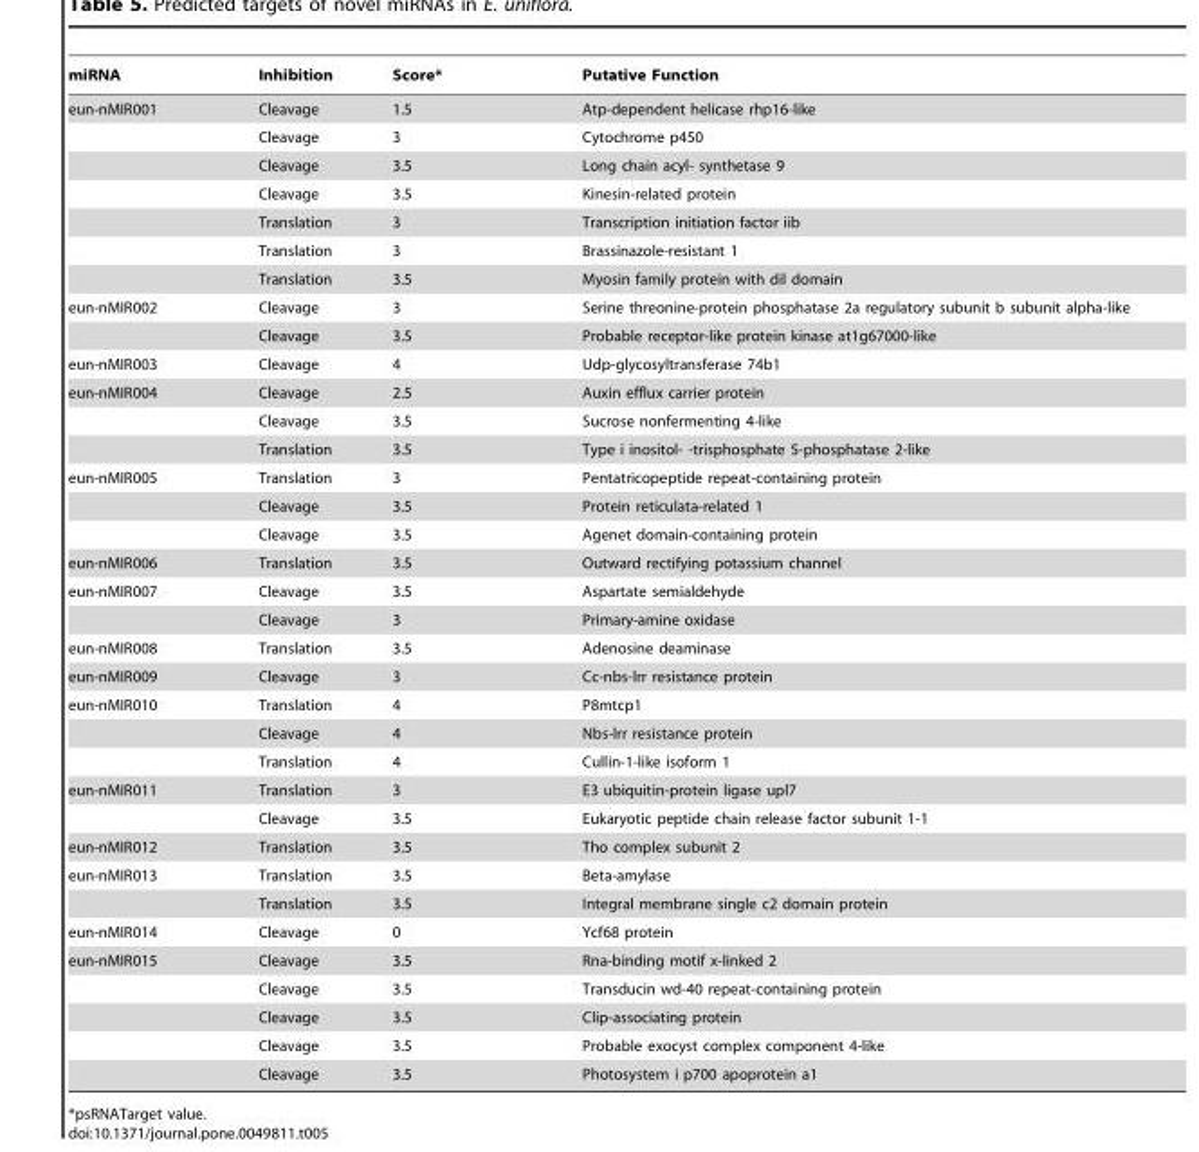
<table><thead><tr><td>miRNA</td><td>Inhibition</td><td>Score*</td><td>Putative Function</td></tr></thead><tbody><tr><td rowspan="7">eun-nMIR001</td><td>Cleavage</td><td>1.5</td><td>Atp-dependent helicase rhp16-like</td></tr><tr><td>Cleavage</td><td>3</td><td>Cytochrome p450</td></tr><tr><td>Cleavage</td><td>3.5</td><td>Long chain acyl- synthetase 9</td></tr><tr><td>Cleavage</td><td>3.5</td><td>Kinesin-related protein</td></tr><tr><td>Translation</td><td>3</td><td>Transcription initiation factor iib</td></tr><tr><td>Translation</td><td>3</td><td>Brassinazole-resistant 1</td></tr><tr><td>Translation</td><td>3.5</td><td>Myosin family protein with dil domain</td></tr><tr><td rowspan="2">eun-nMIR002</td><td>Cleavage</td><td>3</td><td>Serine threonine-protein phosphatase 2a regulatory subunit b subunit alpha-like</td></tr><tr><td>Cleavage</td><td>3.5</td><td>Probable receptor-like protein kinase at1g67000-like</td></tr><tr><td>eun-nMIR003</td><td>Cleavage</td><td>4</td><td>Udp-glycosyltransferase 74b1</td></tr><tr><td rowspan="3">eun-nMIR004</td><td>Cleavage</td><td>2.5</td><td>Auxin efflux carrier protein</td></tr><tr><td>Cleavage</td><td>3.5</td><td>Sucrose nonfermenting 4-like</td></tr><tr><td>Translation</td><td>3.5</td><td>Type i inositol- -trisphosphate 5-phosphatase 2-like</td></tr><tr><td rowspan="3">eun-nMIR005</td><td>Translation</td><td>3</td><td>Pentatricopeptide repeat-containing protein</td></tr><tr><td>Cleavage</td><td>3.5</td><td>Protein reticulata-related 1</td></tr><tr><td>Cleavage</td><td>3.5</td><td>Agenet domain-containing protein</td></tr><tr><td>eun-nMIR006</td><td>Translation</td><td>3.5</td><td>Outward rectifying potassium channel</td></tr><tr><td rowspan="2">eun-nMIR007</td><td>Cleavage</td><td>3.5</td><td>Aspartate semialdehyde</td></tr><tr><td>Cleavage</td><td>3</td><td>Primary-amine oxidase</td></tr><tr><td>eun-nMIR008</td><td>Translation</td><td>3.5</td><td>Adenosine deaminase</td></tr><tr><td>eun-nMIR009</td><td>Cleavage</td><td>3</td><td>Cc-nbs-lrr resistance protein</td></tr><tr><td rowspan="3">eun-nMIR010</td><td>Translation</td><td>4</td><td>P8mtcp1</td></tr><tr><td>Cleavage</td><td>4</td><td>Nbs-lrr resistance protein</td></tr><tr><td>Translation</td><td>4</td><td>Cullin-1-like isoform 1</td></tr><tr><td rowspan="2">eun-nMIR011</td><td>Translation</td><td>3</td><td>E3 ubiquitin-protein ligase upl7</td></tr><tr><td>Cleavage</td><td>3.5</td><td>Eukaryotic peptide chain release factor subunit 1-1</td></tr><tr><td>eun-nMIR012</td><td>Translation</td><td>3.5</td><td>Tho complex subunit 2</td></tr><tr><td rowspan="2">eun-nMIR013</td><td>Translation</td><td>3.5</td><td>Beta-amylase</td></tr><tr><td>Translation</td><td>3.5</td><td>Integral membrane single c2 domain protein</td></tr><tr><td>eun-nMIR014</td><td>Cleavage</td><td>0</td><td>Ycf68 protein</td></tr><tr><td rowspan="5">eun-nMIR015</td><td>Cleavage</td><td>3.5</td><td>Rna-binding motif x-linked 2</td></tr><tr><td>Cleavage</td><td>3.5</td><td>Transducin wd-40 repeat-containing protein</td></tr><tr><td>Cleavage</td><td>3.5</td><td>Clip-associating protein</td></tr><tr><td>Cleavage</td><td>3.5</td><td>Probable exocyst complex component 4-like</td></tr><tr><td>Cleavage</td><td>3.5</td><td>Photosystem i p700 apoprotein a1</td></tr></tbody></table>